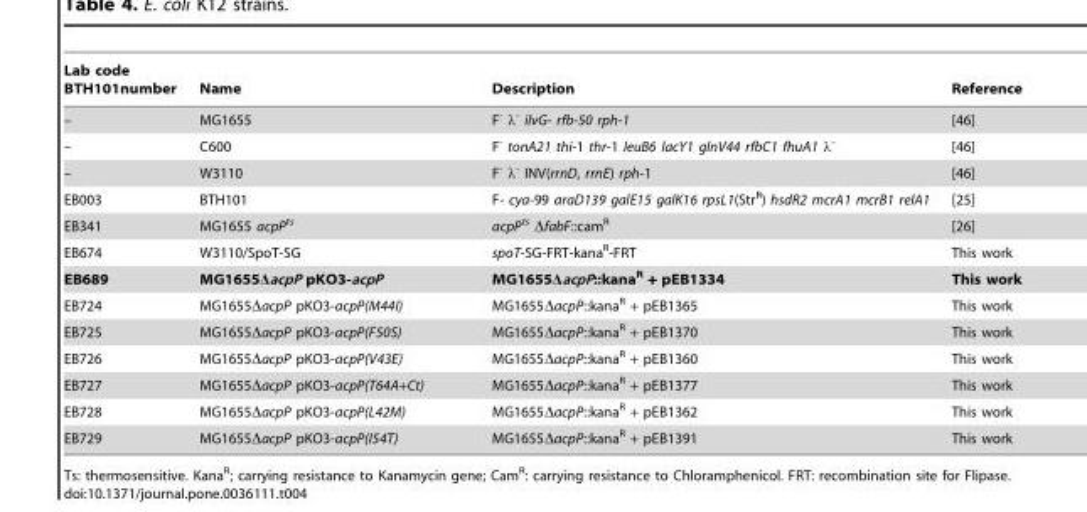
<table><thead><tr><td>Lab code BTH101number</td><td>Name</td><td>Description</td><td>Reference</td></tr></thead><tbody><tr><td>–</td><td>MG1655</td><td>F<sup>-</sup> λ<sup>-</sup> ilvG- rfb-50 rph-1</td><td>[46]</td></tr><tr><td>–</td><td>C600</td><td>F<sup>-</sup> tonA21 thi-1 thr-1 leuB6 lacY1 glnV44 rfbC1 fhuA1 λ<sup>-</sup></td><td>[46]</td></tr><tr><td>–</td><td>W3110</td><td>F<sup>-</sup> λ<sup>-</sup> INV(rrnD, rrnE) rph-1</td><td>[46]</td></tr><tr><td>EB003</td><td>BTH101</td><td>F- cya-99 araD139 galE15 galK16 rpsL1(Str<sup>R</sup>) hsdR2 mcrA1 mcrB1 relA1</td><td>[25]</td></tr><tr><td>EB341</td><td>MG1655 acpP<sup>ts</sup></td><td>acpP<sup>ts</sup> ΔfabF::cam<sup>R</sup></td><td>[26]</td></tr><tr><td>EB674</td><td>W3110/SpoT-SG</td><td>spoT-SG-FRT-kana<sup>R</sup>-FRT</td><td>This work</td></tr><tr><td>EB689</td><td>MG1655ΔacpP pKO3-acpP</td><td>MG1655ΔacpP::kana<sup>R</sup> + pEB1334</td><td>This work</td></tr><tr><td>EB724</td><td>MG1655ΔacpP pKO3-acpP(M44I)</td><td>MG1655ΔacpP::kana<sup>R</sup> + pEB1365</td><td>This work</td></tr><tr><td>EB725</td><td>MG1655ΔacpP pKO3-acpP(F50S)</td><td>MG1655ΔacpP::kana<sup>R</sup> + pEB1370</td><td>This work</td></tr><tr><td>EB726</td><td>MG1655ΔacpP pKO3-acpP(V43E)</td><td>MG1655ΔacpP::kana<sup>R</sup> + pEB1360</td><td>This work</td></tr><tr><td>EB727</td><td>MG1655ΔacpP pKO3-acpP(T64A+Ct)</td><td>MG1655ΔacpP::kana<sup>R</sup> + pEB1377</td><td>This work</td></tr><tr><td>EB728</td><td>MG1655ΔacpP pKO3-acpP(L42M)</td><td>MG1655ΔacpP::kana<sup>R</sup> + pEB1362</td><td>This work</td></tr><tr><td>EB729</td><td>MG1655ΔacpP pKO3-acpP(I54T)</td><td>MG1655ΔacpP::kana<sup>R</sup> + pEB1391</td><td>This work</td></tr></tbody></table>